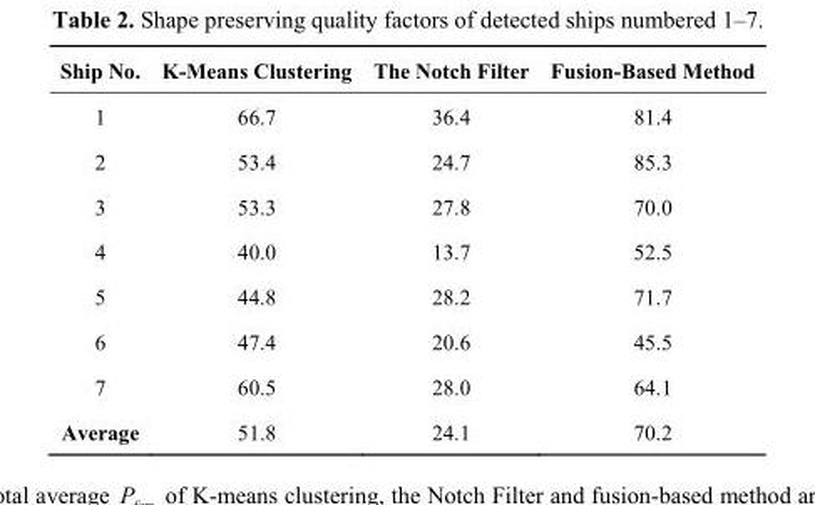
<table><thead><tr><td>Ship No.</td><td>K-Means Clustering</td><td>The Notch Filter</td><td>Fusion-Based Method</td></tr></thead><tbody><tr><td>1</td><td>66.7</td><td>36.4</td><td>81.4</td></tr><tr><td>2</td><td>53.4</td><td>24.7</td><td>85.3</td></tr><tr><td>3</td><td>53.3</td><td>27.8</td><td>70.0</td></tr><tr><td>4</td><td>40.0</td><td>13.7</td><td>52.5</td></tr><tr><td>5</td><td>44.8</td><td>28.2</td><td>71.7</td></tr><tr><td>6</td><td>47.4</td><td>20.6</td><td>45.5</td></tr><tr><td>7</td><td>60.5</td><td>28.0</td><td>64.1</td></tr><tr><td>Average</td><td>51.8</td><td>24.1</td><td>70.2</td></tr></tbody></table>